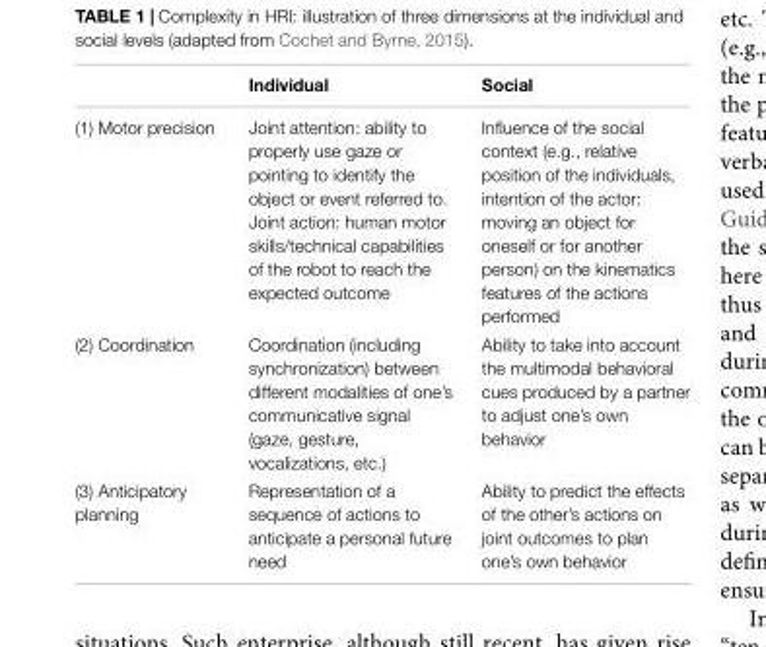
<table><thead><tr><td></td><td>Individual</td><td>Social</td></tr></thead><tbody><tr><td>(1) Motor precision</td><td>Joint attention: ability to properly use gaze or pointing to identify the object or event referred to. Joint action: human motor skills/technical capabilities of the robot to reach the expected outcome</td><td>Influence of the social context (e.g., relative position of the individuals, intention of the actor: moving an object for oneself or for another person) on the kinematics features of the actions performed</td></tr><tr><td>(2) Coordination</td><td>Coordination (including synchronization) between different modalities of one’s communicative signal (gaze, gesture, vocalizations, etc.)</td><td>Ability to take into account the multimodal behavioral cues produced by a partner to adjust one’s own behavior</td></tr><tr><td>(3) Anticipatory planning</td><td>Representation of a sequence of actions to anticipate a personal future need</td><td>Ability to predict the effects of the other’s actions on joint outcomes to plan one’s own behavior</td></tr></tbody></table>